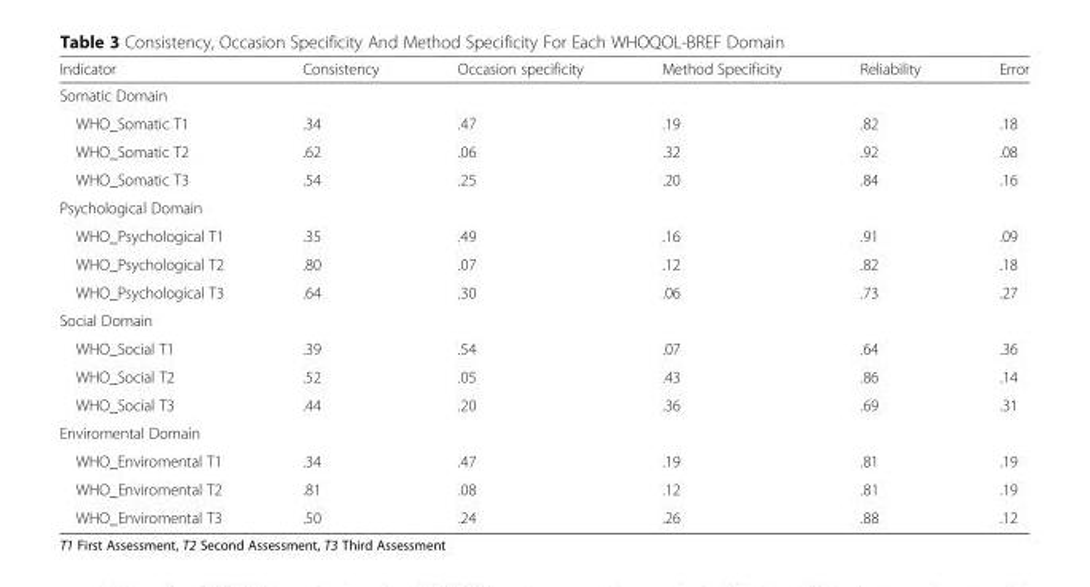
<table><thead><tr><td>Indicator</td><td>Consistency</td><td>Occasion specificity</td><td>Method Specificity</td><td>Reliability</td><td>Error</td></tr></thead><tbody><tr><td colspan="6">Somatic Domain</td></tr><tr><td>WHO_Somatic T1</td><td>.34</td><td>.47</td><td>.19</td><td>.82</td><td>.18</td></tr><tr><td>WHO_Somatic T2</td><td>.62</td><td>.06</td><td>.32</td><td>.92</td><td>.08</td></tr><tr><td>WHO_Somatic T3</td><td>.54</td><td>.25</td><td>.20</td><td>.84</td><td>.16</td></tr><tr><td colspan="6">Psychological Domain</td></tr><tr><td>WHO_Psychological T1</td><td>.35</td><td>.49</td><td>.16</td><td>.91</td><td>.09</td></tr><tr><td>WHO_Psychological T2</td><td>.80</td><td>.07</td><td>.12</td><td>.82</td><td>.18</td></tr><tr><td>WHO_Psychological T3</td><td>.64</td><td>.30</td><td>.06</td><td>.73</td><td>.27</td></tr><tr><td colspan="6">Social Domain</td></tr><tr><td>WHO_Social T1</td><td>.39</td><td>.54</td><td>.07</td><td>.64</td><td>.36</td></tr><tr><td>WHO_Social T2</td><td>.52</td><td>.05</td><td>.43</td><td>.86</td><td>.14</td></tr><tr><td>WHO_Social T3</td><td>.44</td><td>.20</td><td>.36</td><td>.69</td><td>.31</td></tr><tr><td colspan="6">Enviromental Domain</td></tr><tr><td>WHO_Enviromental T1</td><td>.34</td><td>.47</td><td>.19</td><td>.81</td><td>.19</td></tr><tr><td>WHO_Enviromental T2</td><td>.81</td><td>.08</td><td>.12</td><td>.81</td><td>.19</td></tr><tr><td>WHO_Enviromental T3</td><td>.50</td><td>.24</td><td>.26</td><td>.88</td><td>.12</td></tr></tbody></table>